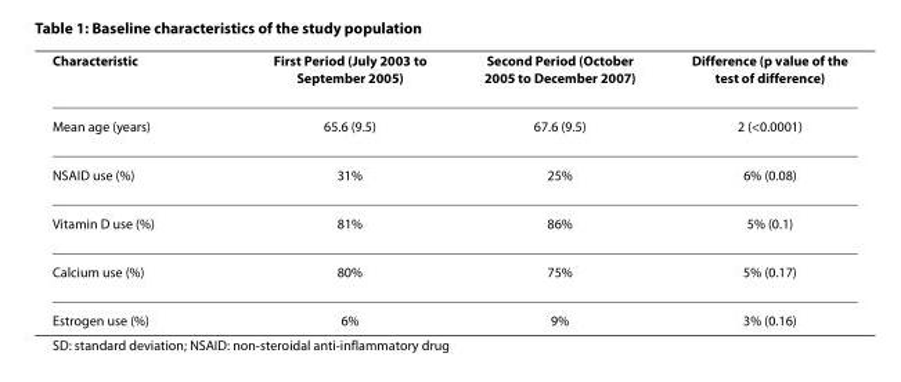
<table><thead><tr><td>Characteristic</td><td>First Period (July 2003 to September 2005)</td><td>Second Period (October 2005 to December 2007)</td><td>Difference (p value of the test of difference)</td></tr></thead><tbody><tr><td>Mean age (years)</td><td>65.6 (9.5)</td><td>67.6 (9.5)</td><td>2 (&lt;0.0001)</td></tr><tr><td>NSAID use (%)</td><td>31%</td><td>25%</td><td>6% (0.08)</td></tr><tr><td>Vitamin D use (%)</td><td>81%</td><td>86%</td><td>5% (0.1)</td></tr><tr><td>Calcium use (%)</td><td>80%</td><td>75%</td><td>5% (0.17)</td></tr><tr><td>Estrogen use (%)</td><td>6%</td><td>9%</td><td>3% (0.16)</td></tr></tbody></table>